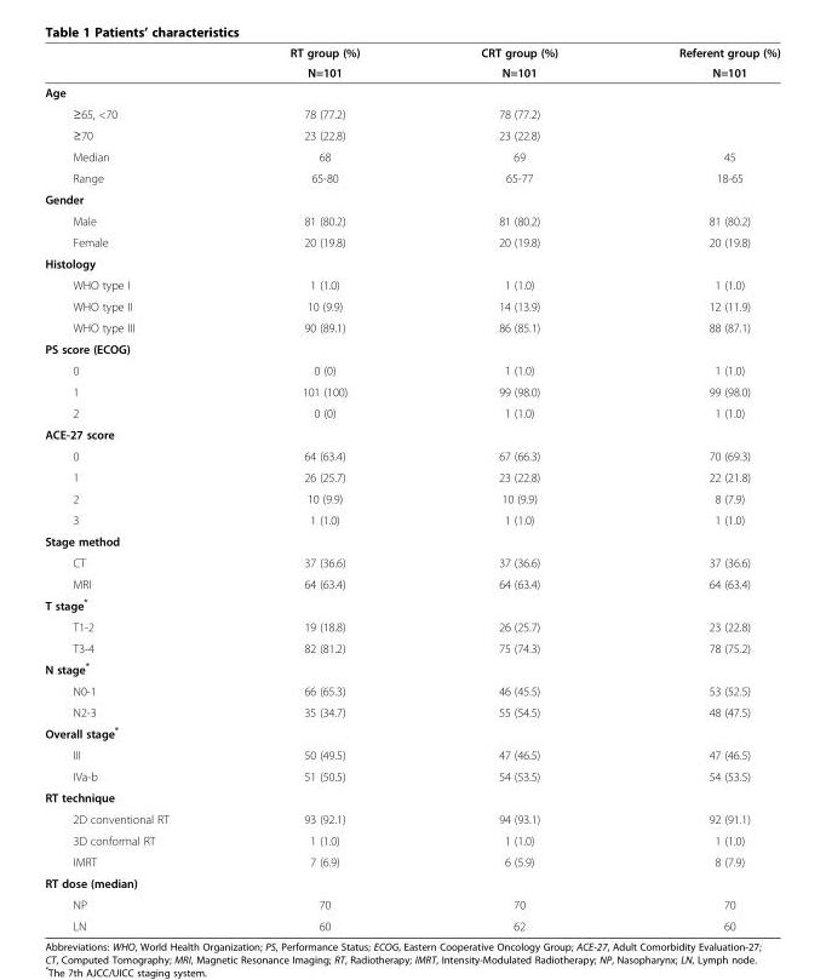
<table><thead><tr><td rowspan="2"></td><td rowspan="2">RT group (%) N=101</td><td rowspan="2">CRT group (%) N=101</td><td rowspan="2">Referent group (%) N=101</td></tr><tr></tr></thead><tbody><tr><td colspan="4">Age</td></tr><tr><td>≥65, &lt;70</td><td>78 (77.2)</td><td>78 (77.2)</td><td></td></tr><tr><td>≥70</td><td>23 (22.8)</td><td>23 (22.8)</td><td></td></tr><tr><td>Median</td><td>68</td><td>69</td><td>45</td></tr><tr><td>Range</td><td>65-80</td><td>65-77</td><td>18-65</td></tr><tr><td colspan="4">Gender</td></tr><tr><td>Male</td><td>81 (80.2)</td><td>81 (80.2)</td><td>81 (80.2)</td></tr><tr><td>Female</td><td>20 (19.8)</td><td>20 (19.8)</td><td>20 (19.8)</td></tr><tr><td colspan="4">Histology</td></tr><tr><td>WHO type I</td><td>1 (1.0)</td><td>1 (1.0)</td><td>1 (1.0)</td></tr><tr><td>WHO type II</td><td>10 (9.9)</td><td>14 (13.9)</td><td>12 (11.9)</td></tr><tr><td>WHO type III</td><td>90 (89.1)</td><td>86 (85.1)</td><td>88 (87.1)</td></tr><tr><td colspan="4">PS score (ECOG)</td></tr><tr><td>0</td><td>0 (0)</td><td>1 (1.0)</td><td>1 (1.0)</td></tr><tr><td>1</td><td>101 (100)</td><td>99 (98.0)</td><td>99 (98.0)</td></tr><tr><td>2</td><td>0 (0)</td><td>1 (1.0)</td><td>1 (1.0)</td></tr><tr><td colspan="4">ACE-27 score</td></tr><tr><td>0</td><td>64 (63.4)</td><td>67 (66.3)</td><td>70 (69.3)</td></tr><tr><td>1</td><td>26 (25.7)</td><td>23 (22.8)</td><td>22 (21.8)</td></tr><tr><td>2</td><td>10 (9.9)</td><td>10 (9.9)</td><td>8 (7.9)</td></tr><tr><td>3</td><td>1 (1.0)</td><td>1 (1.0)</td><td>1 (1.0)</td></tr><tr><td colspan="4">Stage method</td></tr><tr><td>CT</td><td>37 (36.6)</td><td>37 (36.6)</td><td>37 (36.6)</td></tr><tr><td>MRI</td><td>64 (63.4)</td><td>64 (63.4)</td><td>64 (63.4)</td></tr><tr><td colspan="4">T stage*</td></tr><tr><td>T1-2</td><td>19 (18.8)</td><td>26 (25.7)</td><td>23 (22.8)</td></tr><tr><td>T3-4</td><td>82 (81.2)</td><td>75 (74.3)</td><td>78 (75.2)</td></tr><tr><td colspan="4">N stage*</td></tr><tr><td>N0-1</td><td>66 (65.3)</td><td>46 (45.5)</td><td>53 (52.5)</td></tr><tr><td>N2-3</td><td>35 (34.7)</td><td>55 (54.5)</td><td>48 (47.5)</td></tr><tr><td colspan="4">Overall stage*</td></tr><tr><td>III</td><td>50 (49.5)</td><td>47 (46.5)</td><td>47 (46.5)</td></tr><tr><td>IVa-b</td><td>51 (50.5)</td><td>54 (53.5)</td><td>54 (53.5)</td></tr><tr><td colspan="4">RT technique</td></tr><tr><td>2D conventional RT</td><td>93 (92.1)</td><td>94 (93.1)</td><td>92 (91.1)</td></tr><tr><td>3D conformal RT</td><td>1 (1.0)</td><td>1 (1.0)</td><td>1 (1.0)</td></tr><tr><td>IMRT</td><td>7 (6.9)</td><td>6 (5.9)</td><td>8 (7.9)</td></tr><tr><td colspan="4">RT dose (median)</td></tr><tr><td>NP</td><td>70</td><td>70</td><td>70</td></tr><tr><td>LN</td><td>60</td><td>62</td><td>60</td></tr></tbody></table>